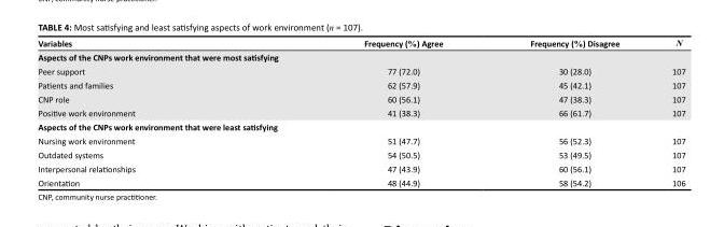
<table><thead><tr><td>Variables</td><td>Frequency (%) Agree</td><td>Frequency (%) Disagree</td><td>N</td></tr></thead><tbody><tr><td colspan="4">Aspects of the CNPs work environment that were most satisfying</td></tr><tr><td>Peer support</td><td>77 (72.0)</td><td>30 (28.0)</td><td>107</td></tr><tr><td>Patients and families</td><td>62 (57.9)</td><td>45 (42.1)</td><td>107</td></tr><tr><td>CNP role</td><td>60 (56.1)</td><td>47 (38.3)</td><td>107</td></tr><tr><td>Positive work environment</td><td>41 (38.3)</td><td>66 (61.7)</td><td>107</td></tr><tr><td colspan="4">Aspects of the CNPs work environment that were least satisfying</td></tr><tr><td>Nursing work environment</td><td>51 (47.7)</td><td>56 (52.3)</td><td>107</td></tr><tr><td>Outdated systems</td><td>54 (50.5)</td><td>53 (49.5)</td><td>107</td></tr><tr><td>Interpersonal relationships</td><td>47 (43.9)</td><td>60 (56.1)</td><td>107</td></tr><tr><td>Orientation</td><td>48 (44.9)</td><td>58 (54.2)</td><td>106</td></tr></tbody></table>